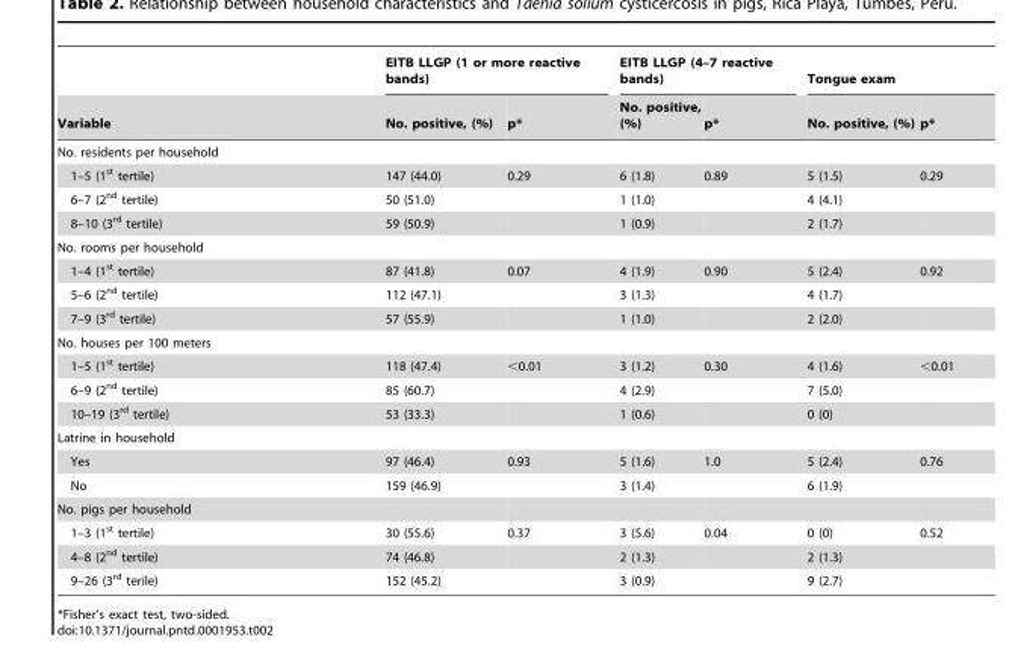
<table><thead><tr><td rowspan="2">Variable</td><td colspan="2">EITB LLGP (1 or more reactive bands)</td><td colspan="2">EITB LLGP (4–7 reactive bands)</td><td colspan="2">Tongue exam</td></tr><tr><td>No. positive, (%)</td><td>p*</td><td>No. positive, (%)</td><td>p*</td><td>No. positive, (%)</td><td>p*</td></tr></thead><tbody><tr><td colspan="7">No. residents per household</td></tr><tr><td>1–5 (1<sup>st</sup> tertile)</td><td>147 (44.0)</td><td>0.29</td><td>6 (1.8)</td><td>0.89</td><td>5 (1.5)</td><td>0.29</td></tr><tr><td>6–7 (2<sup>nd</sup> tertile)</td><td>50 (51.0)</td><td></td><td>1 (1.0)</td><td></td><td>4 (4.1)</td><td></td></tr><tr><td>8–10 (3<sup>rd</sup> tertile)</td><td>59 (50.9)</td><td></td><td>1 (0.9)</td><td></td><td>2 (1.7)</td><td></td></tr><tr><td colspan="7">No. rooms per household</td></tr><tr><td>1–4 (1<sup>st</sup> tertile)</td><td>87 (41.8)</td><td>0.07</td><td>4 (1.9)</td><td>0.90</td><td>5 (2.4)</td><td>0.92</td></tr><tr><td>5–6 (2<sup>nd</sup> tertile)</td><td>112 (47.1)</td><td></td><td>3 (1.3)</td><td></td><td>4 (1.7)</td><td></td></tr><tr><td>7–9 (3<sup>rd</sup> tertile)</td><td>57 (55.9)</td><td></td><td>1 (1.0)</td><td></td><td>2 (2.0)</td><td></td></tr><tr><td colspan="7">No. houses per 100 meters</td></tr><tr><td>1–5 (1<sup>st</sup> tertile)</td><td>118 (47.4)</td><td>&lt;0.01</td><td>3 (1.2)</td><td>0.30</td><td>4 (1.6)</td><td>&lt;0.01</td></tr><tr><td>6–9 (2<sup>nd</sup> tertile)</td><td>85 (60.7)</td><td></td><td>4 (2.9)</td><td></td><td>7 (5.0)</td><td></td></tr><tr><td>10–19 (3<sup>rd</sup> tertile)</td><td>53 (33.3)</td><td></td><td>1 (0.6)</td><td></td><td>0 (0)</td><td></td></tr><tr><td colspan="7">Latrine in household</td></tr><tr><td>Yes</td><td>97 (46.4)</td><td>0.93</td><td>5 (1.6)</td><td>1.0</td><td>5 (2.4)</td><td>0.76</td></tr><tr><td>No</td><td>159 (46.9)</td><td></td><td>3 (1.4)</td><td></td><td>6 (1.9)</td><td></td></tr><tr><td colspan="7">No. pigs per household</td></tr><tr><td>1–3 (1<sup>st</sup> tertile)</td><td>30 (55.6)</td><td>0.37</td><td>3 (5.6)</td><td>0.04</td><td>0 (0)</td><td>0.52</td></tr><tr><td>4–8 (2<sup>nd</sup> tertile)</td><td>74 (46.8)</td><td></td><td>2 (1.3)</td><td></td><td>2 (1.3)</td><td></td></tr><tr><td>9–26 (3<sup>rd</sup> terile)</td><td>152 (45.2)</td><td></td><td>3 (0.9)</td><td></td><td>9 (2.7)</td><td></td></tr></tbody></table>